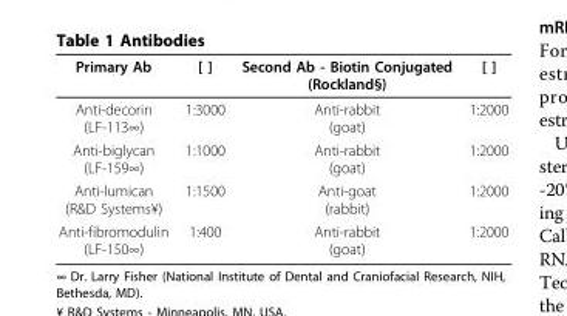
<table><thead><tr><td>Primary Ab</td><td>[ ]</td><td>Second Ab - Biotin Conjugated (Rockland§)</td><td>[ ]</td></tr></thead><tbody><tr><td>Anti-decorin (LF-113∞)</td><td>1:3000</td><td>Anti-rabbit (goat)</td><td>1:2000</td></tr><tr><td>Anti-biglycan (LF-159∞)</td><td>1:1000</td><td>Anti-rabbit (goat)</td><td>1:2000</td></tr><tr><td>Anti-lumican (R&amp;D Systems¥)</td><td>1:1500</td><td>Anti-goat (rabbit)</td><td>1:2000</td></tr><tr><td>Anti-fibromodulin (LF-150∞)</td><td>1:400</td><td>Anti-rabbit (goat)</td><td>1:2000</td></tr></tbody></table>